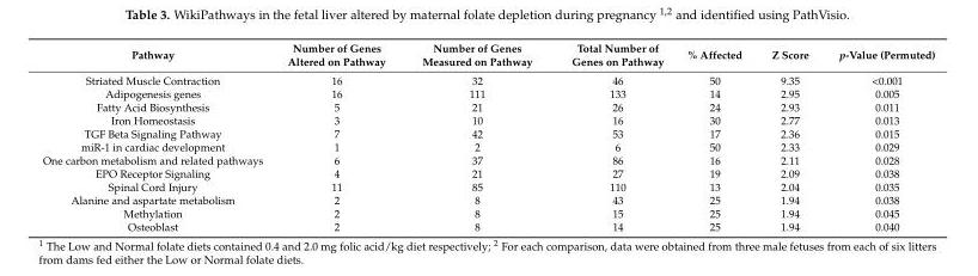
<table><thead><tr><td>Pathway</td><td>Number of Genes Altered on Pathway</td><td>Number of Genes Measured on Pathway</td><td>Total Number of Genes on Pathway</td><td>% Affected</td><td>Z Score</td><td>p-Value (Permuted)</td></tr></thead><tbody><tr><td>Striated Muscle Contraction</td><td>16</td><td>32</td><td>46</td><td>50</td><td>9.35</td><td>&lt;0.001</td></tr><tr><td>Adipogenesis genes</td><td>16</td><td>111</td><td>133</td><td>14</td><td>2.95</td><td>0.005</td></tr><tr><td>Fatty Acid Biosynthesis</td><td>5</td><td>21</td><td>26</td><td>24</td><td>2.93</td><td>0.011</td></tr><tr><td>Iron Homeostasis</td><td>3</td><td>10</td><td>16</td><td>30</td><td>2.77</td><td>0.013</td></tr><tr><td>TGF Beta Signaling Pathway</td><td>7</td><td>42</td><td>53</td><td>17</td><td>2.36</td><td>0.015</td></tr><tr><td>miR-1 in cardiac development</td><td>1</td><td>2</td><td>6</td><td>50</td><td>2.33</td><td>0.029</td></tr><tr><td>One carbon metabolism and related pathways</td><td>6</td><td>37</td><td>86</td><td>16</td><td>2.11</td><td>0.028</td></tr><tr><td>EPO Receptor Signaling</td><td>4</td><td>21</td><td>27</td><td>19</td><td>2.09</td><td>0.038</td></tr><tr><td>Spinal Cord Injury</td><td>11</td><td>85</td><td>110</td><td>13</td><td>2.04</td><td>0.035</td></tr><tr><td>Alanine and aspartate metabolism</td><td>2</td><td>8</td><td>43</td><td>25</td><td>1.94</td><td>0.038</td></tr><tr><td>Methylation</td><td>2</td><td>8</td><td>15</td><td>25</td><td>1.94</td><td>0.045</td></tr><tr><td>Osteoblast</td><td>2</td><td>8</td><td>14</td><td>25</td><td>1.94</td><td>0.040</td></tr></tbody></table>